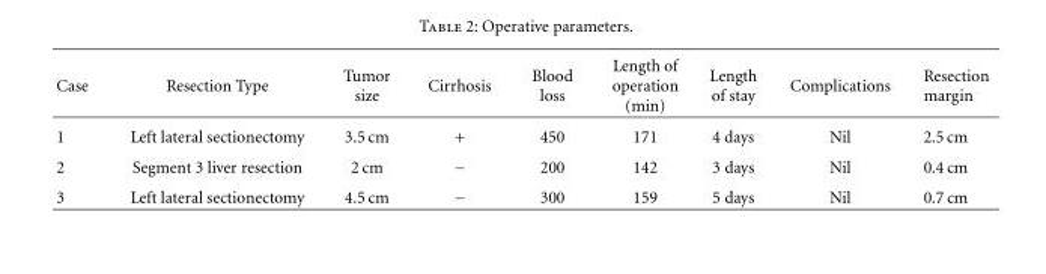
<table><thead><tr><td>Case</td><td>Resection Type</td><td>Tumor size</td><td>Cirrhosis</td><td>Blood loss</td><td>Length of operation (min)</td><td>Length of stay</td><td>Complications</td><td>Resection margin</td></tr></thead><tbody><tr><td>1</td><td>Left lateral sectionectomy</td><td>3.5 cm</td><td>+</td><td>450</td><td>171</td><td>4 days</td><td>Nil</td><td>2.5 cm</td></tr><tr><td>2</td><td>Segment 3 liver resection</td><td>2 cm</td><td>−</td><td>200</td><td>142</td><td>3 days</td><td>Nil</td><td>0.4 cm</td></tr><tr><td>3</td><td>Left lateral sectionectomy</td><td>4.5 cm</td><td>−</td><td>300</td><td>159</td><td>5 days</td><td>Nil</td><td>0.7 cm</td></tr></tbody></table>